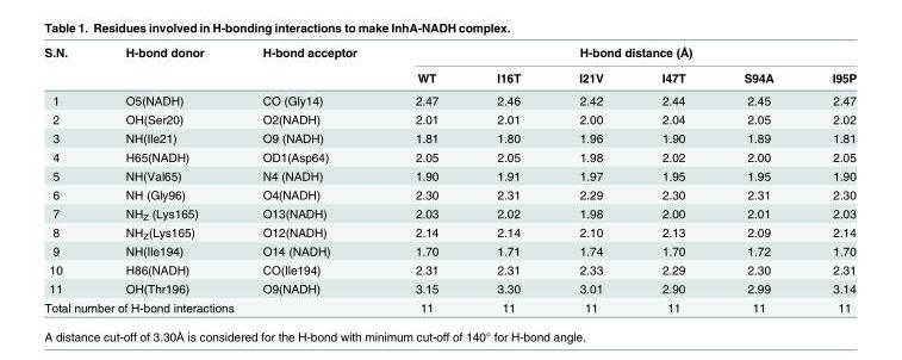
<table><thead><tr><td rowspan="2">S.N.</td><td rowspan="2">H-bond donor</td><td rowspan="2">H-bond acceptor</td><td colspan="6">H-bond distance (Å)</td></tr><tr><td>WT</td><td>I16T</td><td>I21V</td><td>I47T</td><td>S94A</td><td>I95P</td></tr></thead><tbody><tr><td>1</td><td>O5(NADH)</td><td>CO (Gly14)</td><td>2.47</td><td>2.46</td><td>2.42</td><td>2.44</td><td>2.45</td><td>2.47</td></tr><tr><td>2</td><td>OH(Ser20)</td><td>O2(NADH)</td><td>2.01</td><td>2.01</td><td>2.00</td><td>2.04</td><td>2.05</td><td>2.02</td></tr><tr><td>3</td><td>NH(Ile21)</td><td>O9 (NADH)</td><td>1.81</td><td>1.80</td><td>1.96</td><td>1.90</td><td>1.89</td><td>1.81</td></tr><tr><td>4</td><td>H65(NADH)</td><td>OD1(Asp64)</td><td>2.05</td><td>2.05</td><td>1.98</td><td>2.02</td><td>2.00</td><td>2.05</td></tr><tr><td>5</td><td>NH(Val65)</td><td>N4 (NADH)</td><td>1.90</td><td>1.91</td><td>1.97</td><td>1.95</td><td>1.95</td><td>1.90</td></tr><tr><td>6</td><td>NH (Gly96)</td><td>O4(NADH)</td><td>2.30</td><td>2.31</td><td>2.29</td><td>2.30</td><td>2.31</td><td>2.30</td></tr><tr><td>7</td><td>NH<sub>Z</sub> (Lys165)</td><td>O13(NADH)</td><td>2.03</td><td>2.02</td><td>1.98</td><td>2.00</td><td>2.01</td><td>2.03</td></tr><tr><td>8</td><td>NH<sub>Z</sub>(Lys165)</td><td>O12(NADH)</td><td>2.14</td><td>2.14</td><td>2.10</td><td>2.13</td><td>2.09</td><td>2.14</td></tr><tr><td>9</td><td>NH(Ile194)</td><td>O14 (NADH)</td><td>1.70</td><td>1.71</td><td>1.74</td><td>1.70</td><td>1.72</td><td>1.70</td></tr><tr><td>10</td><td>H86(NADH)</td><td>CO(Ile194)</td><td>2.31</td><td>2.31</td><td>2.33</td><td>2.29</td><td>2.30</td><td>2.31</td></tr><tr><td>11</td><td>OH(Thr196)</td><td>O9(NADH)</td><td>3.15</td><td>3.30</td><td>3.01</td><td>2.90</td><td>2.99</td><td>3.14</td></tr><tr><td colspan="3">Total number of H-bond interactions</td><td>11</td><td>11</td><td>11</td><td>11</td><td>11</td><td>11</td></tr></tbody></table>